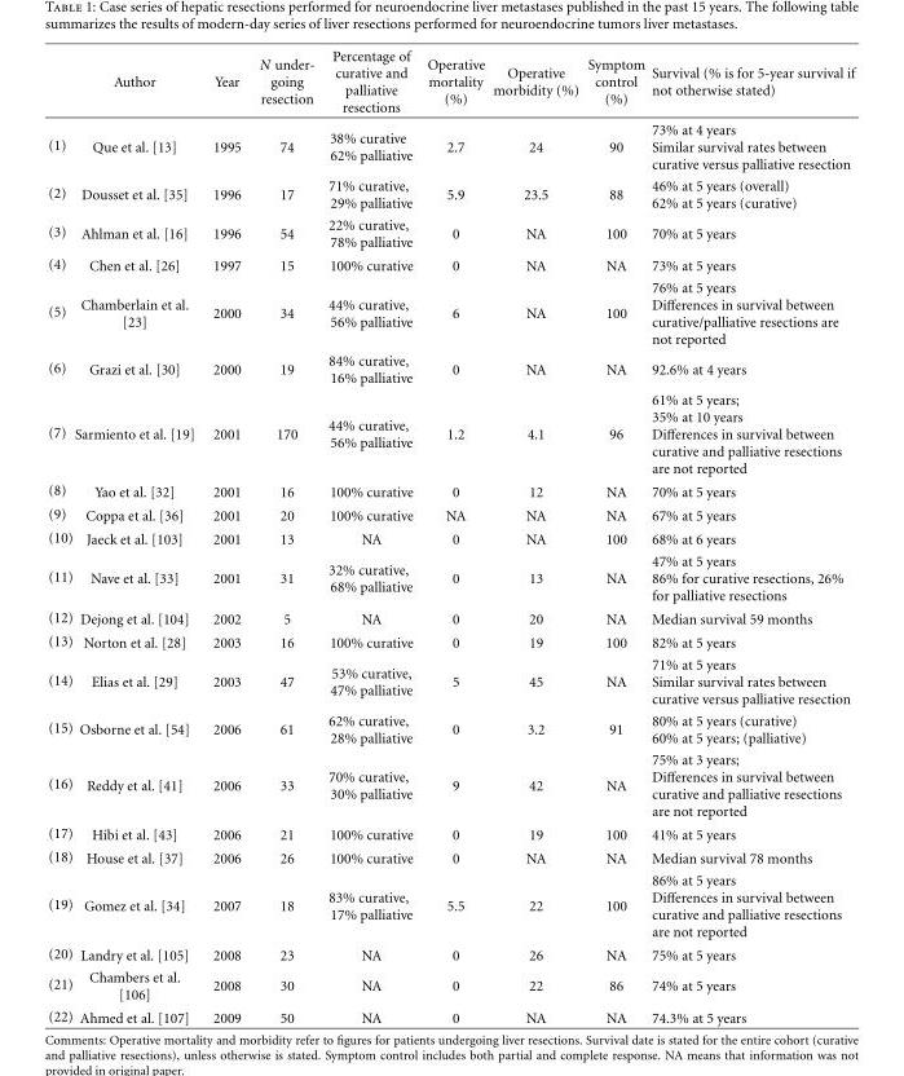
<table><thead><tr><td></td><td>Author</td><td>Year</td><td>N under- going resection</td><td>Percentage of curative and palliative resections</td><td>Operative mortality (%)</td><td>Operative morbidity (%)</td><td>Symptom control (%)</td><td>Survival (% is for 5-year survival if not otherwise stated)</td></tr></thead><tbody><tr><td>(1)</td><td>Que et al. [13]</td><td>1995</td><td>74</td><td>38% curative 62% palliative</td><td>2.7</td><td>24</td><td>90</td><td>73% at 4 years Similar survival rates between curative versus palliative resection</td></tr><tr><td>(2)</td><td>Dousset et al. [35]</td><td>1996</td><td>17</td><td>71% curative, 29% palliative</td><td>5.9</td><td>23.5</td><td>88</td><td>46% at 5 years (overall) 62% at 5 years (curative)</td></tr><tr><td>(3)</td><td>Ahlman et al. [16]</td><td>1996</td><td>54</td><td>22% curative, 78% palliative</td><td>0</td><td>NA</td><td>100</td><td>70% at 5 years</td></tr><tr><td>(4)</td><td>Chen et al. [26]</td><td>1997</td><td>15</td><td>100% curative</td><td>0</td><td>NA</td><td>NA</td><td>73% at 5 years</td></tr><tr><td>(5)</td><td>Chamberlain et al. [23]</td><td>2000</td><td>34</td><td>44% curative, 56% palliative</td><td>6</td><td>NA</td><td>100</td><td>76% at 5 years Differences in survival between curative/palliative resections are not reported</td></tr><tr><td>(6)</td><td>Grazi et al. [30]</td><td>2000</td><td>19</td><td>84% curative, 16% palliative</td><td>0</td><td>NA</td><td>NA</td><td>92.6% at 4 years</td></tr><tr><td>(7)</td><td>Sarmiento et al. [19]</td><td>2001</td><td>170</td><td>44% curative, 56% palliative</td><td>1.2</td><td>4.1</td><td>96</td><td>61% at 5 years; 35% at 10 years Differences in survival between curative and palliative resections are not reported</td></tr><tr><td>(8)</td><td>Yao et al. [32]</td><td>2001</td><td>16</td><td>100% curative</td><td>0</td><td>12</td><td>NA</td><td>70% at 5 years</td></tr><tr><td>(9)</td><td>Coppa et al. [36]</td><td>2001</td><td>20</td><td>100% curative</td><td>NA</td><td>NA</td><td>NA</td><td>67% at 5 years</td></tr><tr><td>(10)</td><td>Jaeck et al. [103]</td><td>2001</td><td>13</td><td>NA</td><td>0</td><td>NA</td><td>100</td><td>68% at 6 years</td></tr><tr><td>(11)</td><td>Nave et al. [33]</td><td>2001</td><td>31</td><td>32% curative, 68% palliative</td><td>0</td><td>13</td><td>NA</td><td>47% at 5 years 86% for curative resections, 26% for palliative resections</td></tr><tr><td>(12)</td><td>Dejong et al. [104]</td><td>2002</td><td>5</td><td>NA</td><td>0</td><td>20</td><td>NA</td><td>Median survival 59 months</td></tr><tr><td>(13)</td><td>Norton et al. [28]</td><td>2003</td><td>16</td><td>100% curative</td><td>0</td><td>19</td><td>100</td><td>82% at 5 years</td></tr><tr><td>(14)</td><td>Elias et al. [29]</td><td>2003</td><td>47</td><td>53% curative, 47% palliative</td><td>5</td><td>45</td><td>NA</td><td>71% at 5 years Similar survival rates between curative versus palliative resection</td></tr><tr><td>(15)</td><td>Osborne et al. [54]</td><td>2006</td><td>61</td><td>62% curative, 28% palliative</td><td>0</td><td>3.2</td><td>91</td><td>80% at 5 years (curative) 60% at 5 years; (palliative)</td></tr><tr><td>(16)</td><td>Reddy et al. [41]</td><td>2006</td><td>33</td><td>70% curative, 30% palliative</td><td>9</td><td>42</td><td>NA</td><td>75% at 3 years; Differences in survival between curative and palliative resections are not reported</td></tr><tr><td>(17)</td><td>Hibi et al. [43]</td><td>2006</td><td>21</td><td>100% curative</td><td>0</td><td>19</td><td>100</td><td>41% at 5 years</td></tr><tr><td>(18)</td><td>House et al. [37]</td><td>2006</td><td>26</td><td>100% curative</td><td>0</td><td>NA</td><td>NA</td><td>Median survival 78 months</td></tr><tr><td>(19)</td><td>Gomez et al. [34]</td><td>2007</td><td>18</td><td>83% curative, 17% palliative</td><td>5.5</td><td>22</td><td>100</td><td>86% at 5 years Differences in survival between curative and palliative resections are not reported</td></tr><tr><td>(20)</td><td>Landry et al. [105]</td><td>2008</td><td>23</td><td>NA</td><td>0</td><td>26</td><td>NA</td><td>75% at 5 years</td></tr><tr><td>(21)</td><td>Chambers et al. [106]</td><td>2008</td><td>30</td><td>NA</td><td>0</td><td>22</td><td>86</td><td>74% at 5 years</td></tr><tr><td>(22)</td><td>Ahmed et al. [107]</td><td>2009</td><td>50</td><td>NA</td><td>0</td><td>NA</td><td>NA</td><td>74.3% at 5 years</td></tr></tbody></table>